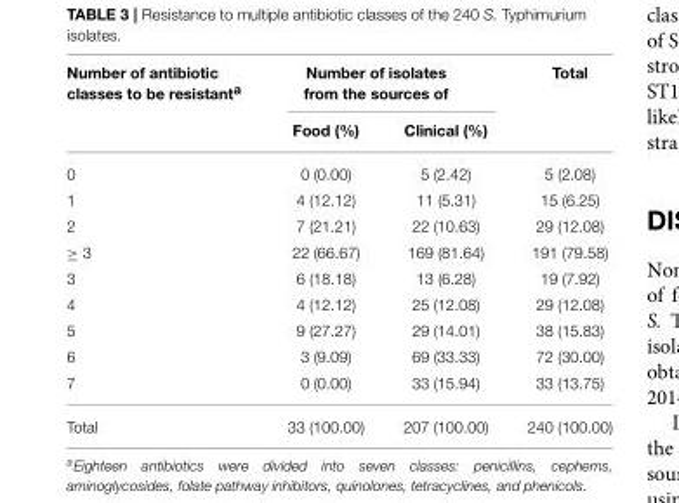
<table><thead><tr><td rowspan="2">Number of antibiotic classes to be resistant<sup>a</sup></td><td colspan="2">Number of isolates from the sources of</td><td rowspan="2">Total</td></tr><tr><td>Food (%)</td><td>Clinical (%)</td></tr></thead><tbody><tr><td>0</td><td>0 (0.00)</td><td>5 (2.42)</td><td>5 (2.08)</td></tr><tr><td>1</td><td>4 (12.12)</td><td>11 (5.31)</td><td>15 (6.25)</td></tr><tr><td>2</td><td>7 (21.21)</td><td>22 (10.63)</td><td>29 (12.08)</td></tr><tr><td>≥ 3</td><td>22 (66.67)</td><td>169 (81.64)</td><td>191 (79.58)</td></tr><tr><td>3</td><td>6 (18.18)</td><td>13 (6.28)</td><td>19 (7.92)</td></tr><tr><td>4</td><td>4 (12.12)</td><td>25 (12.08)</td><td>29 (12.08)</td></tr><tr><td>5</td><td>9 (27.27)</td><td>29 (14.01)</td><td>38 (15.83)</td></tr><tr><td>6</td><td>3 (9.09)</td><td>69 (33.33)</td><td>72 (30.00)</td></tr><tr><td>7</td><td>0 (0.00)</td><td>33 (15.94)</td><td>33 (13.75)</td></tr><tr><td>Total</td><td>33 (100.00)</td><td>207 (100.00)</td><td>240 (100.00)</td></tr></tbody></table>